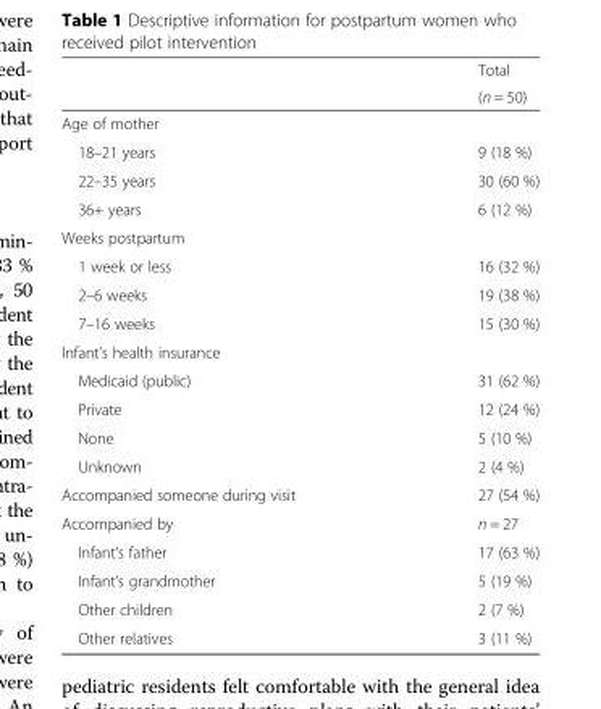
<table><thead><tr><td rowspan="2"></td><td rowspan="2">Total (n = 50)</td></tr><tr></tr></thead><tbody><tr><td colspan="2">Age of mother</td></tr><tr><td>18–21 years</td><td>9 (18 %)</td></tr><tr><td>22–35 years</td><td>30 (60 %)</td></tr><tr><td>36+ years</td><td>6 (12 %)</td></tr><tr><td colspan="2">Weeks postpartum</td></tr><tr><td>1 week or less</td><td>16 (32 %)</td></tr><tr><td>2–6 weeks</td><td>19 (38 %)</td></tr><tr><td>7–16 weeks</td><td>15 (30 %)</td></tr><tr><td colspan="2">Infant’s health insurance</td></tr><tr><td>Medicaid (public)</td><td>31 (62 %)</td></tr><tr><td>Private</td><td>12 (24 %)</td></tr><tr><td>None</td><td>5 (10 %)</td></tr><tr><td>Unknown</td><td>2 (4 %)</td></tr><tr><td>Accompanied someone during visit</td><td>27 (54 %)</td></tr><tr><td>Accompanied by</td><td>n = 27</td></tr><tr><td>Infant’s father</td><td>17 (63 %)</td></tr><tr><td>Infant’s grandmother</td><td>5 (19 %)</td></tr><tr><td>Other children</td><td>2 (7 %)</td></tr><tr><td>Other relatives</td><td>3 (11 %)</td></tr></tbody></table>